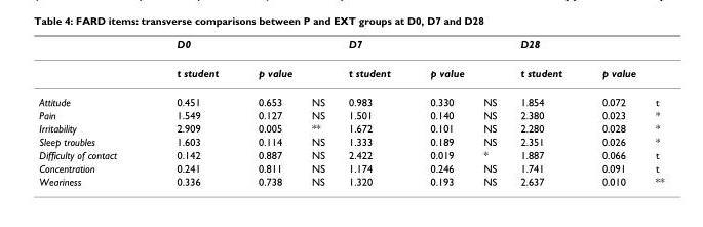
<table><thead><tr><td></td><td>D0</td><td></td><td></td><td>D7</td><td></td><td></td><td>D28</td><td></td><td></td></tr></thead><tbody><tr><td></td><td>t student</td><td colspan="2">p value</td><td>t student</td><td colspan="2">p value</td><td>t student</td><td colspan="2">p value</td></tr><tr><td>Attitude</td><td>0.451</td><td>0.653</td><td>NS</td><td>0.983</td><td>0.330</td><td>NS</td><td>1.854</td><td>0.072</td><td>t</td></tr><tr><td>Pain</td><td>1.549</td><td>0.127</td><td>NS</td><td>1.501</td><td>0.140</td><td>NS</td><td>2.380</td><td>0.023</td><td>*</td></tr><tr><td>Irritability</td><td>2.909</td><td>0.005</td><td>**</td><td>1.672</td><td>0.101</td><td>NS</td><td>2.280</td><td>0.028</td><td>*</td></tr><tr><td>Sleep troubles</td><td>1.603</td><td>0.114</td><td>NS</td><td>1.333</td><td>0.189</td><td>NS</td><td>2.351</td><td>0.026</td><td>*</td></tr><tr><td>Difficulty of contact</td><td>0.142</td><td>0.887</td><td>NS</td><td>2.422</td><td>0.019</td><td>*</td><td>1.887</td><td>0.066</td><td>t</td></tr><tr><td>Concentration</td><td>0.241</td><td>0.811</td><td>NS</td><td>1.174</td><td>0.246</td><td>NS</td><td>1.741</td><td>0.091</td><td>t</td></tr><tr><td>Weariness</td><td>0.336</td><td>0.738</td><td>NS</td><td>1.320</td><td>0.193</td><td>NS</td><td>2.637</td><td>0.010</td><td>**</td></tr></tbody></table>